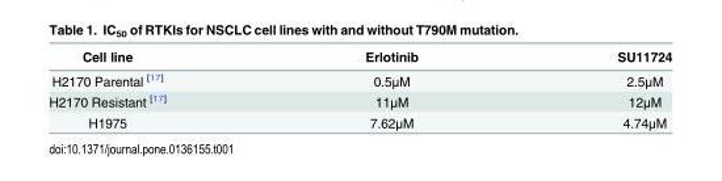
<table><thead><tr><td>Cell line</td><td>Erlotinib</td><td>SU11724</td></tr></thead><tbody><tr><td>H2170 Parental <sup>[17]</sup></td><td>0.5μM</td><td>2.5μM</td></tr><tr><td>H2170 Resistant <sup>[17]</sup></td><td>11μM</td><td>12μM</td></tr><tr><td>H1975</td><td>7.62μM</td><td>4.74μM</td></tr></tbody></table>